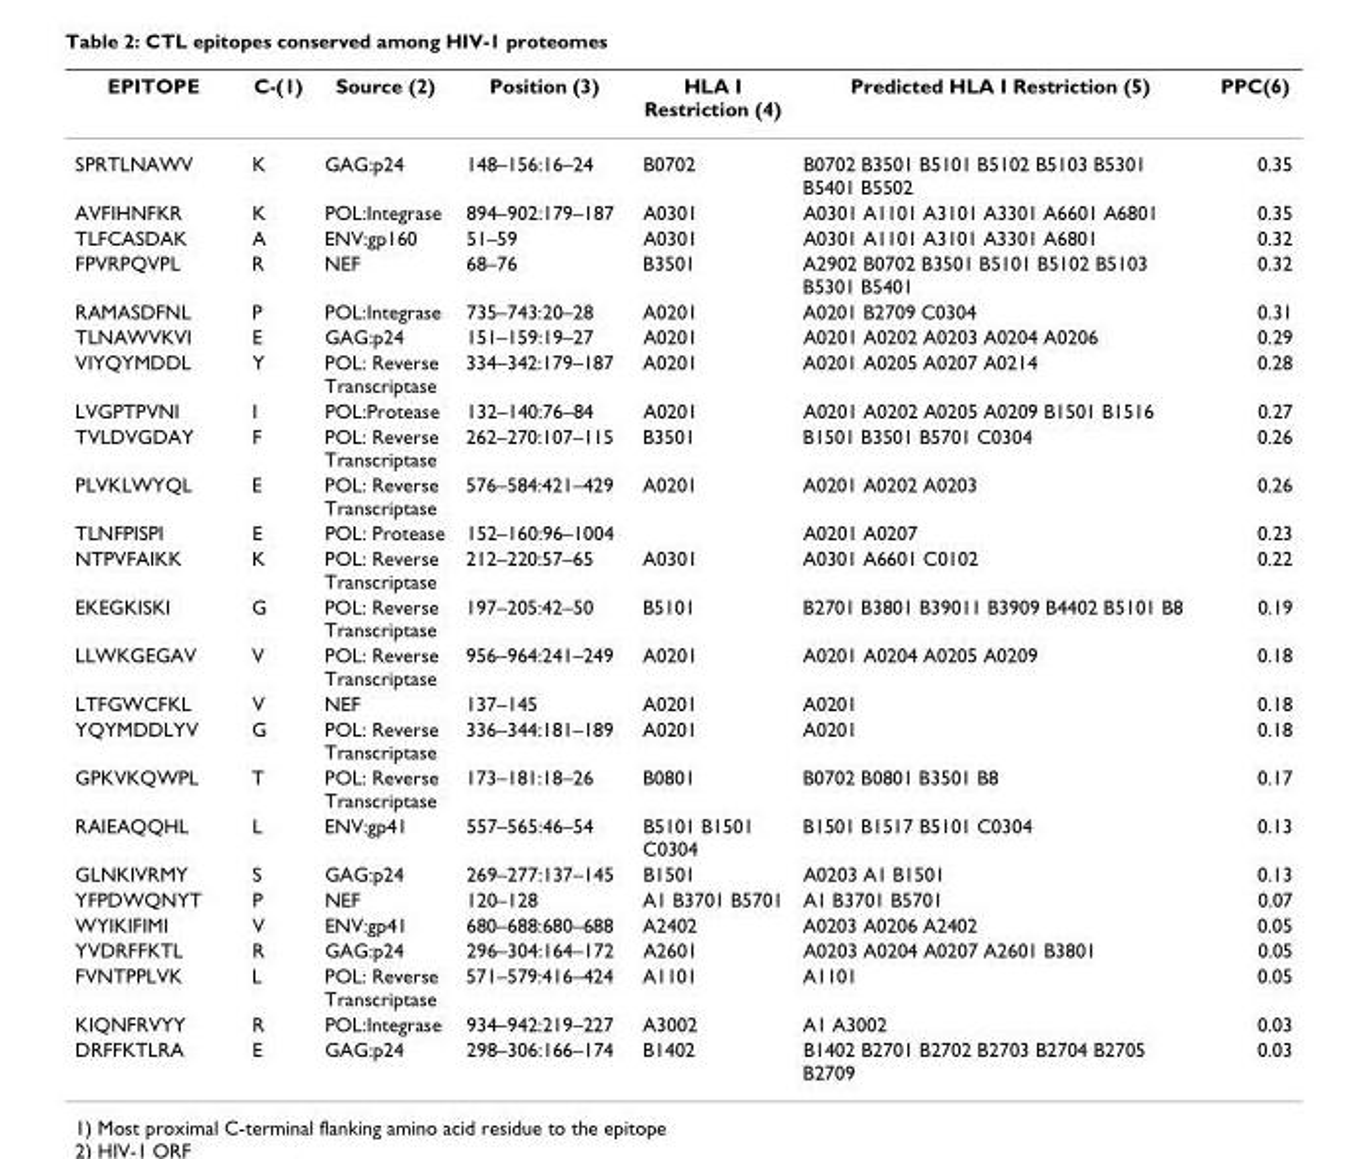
<table><thead><tr><td>EPITOPE</td><td>C-(1)</td><td>Source (2)</td><td>Position (3)</td><td>HLA I Restriction (4)</td><td>Predicted HLA I Restriction (5)</td><td>PPC(6)</td></tr></thead><tbody><tr><td>SPRTLNAWV</td><td>K</td><td>GAG:p24</td><td>148–156:16–24</td><td>B0702</td><td>B0702 B3501 B5101 B5102 B5103 B5301 B5401 B5502</td><td>0.35</td></tr><tr><td>AVFIHNFKR</td><td>K</td><td>POL:Integrase</td><td>894–902:179–187</td><td>A0301</td><td>A0301 A1101 A3101 A3301 A6601 A6801</td><td>0.35</td></tr><tr><td>TLFCASDAK</td><td>A</td><td>ENV:gp160</td><td>51–59</td><td>A0301</td><td>A0301 A1101 A3101 A3301 A6801</td><td>0.32</td></tr><tr><td>FPVRPQVPL</td><td>R</td><td>NEF</td><td>68–76</td><td>B3501</td><td>A2902 B0702 B3501 B5101 B5102 B5103 B5301 B5401</td><td>0.32</td></tr><tr><td>RAMASDFNL</td><td>P</td><td>POL:Integrase</td><td>735–743:20–28</td><td>A0201</td><td>A0201 B2709 C0304</td><td>0.31</td></tr><tr><td>TLNAWVKVI</td><td>E</td><td>GAG:p24</td><td>151–159:19–27</td><td>A0201</td><td>A0201 A0202 A0203 A0204 A0206</td><td>0.29</td></tr><tr><td>VIYQYMDDL</td><td>Y</td><td>POL: Reverse Transcriptase</td><td>334–342:179–187</td><td>A0201</td><td>A0201 A0205 A0207 A0214</td><td>0.28</td></tr><tr><td>LVGPTPVNI</td><td>I</td><td>POL:Protease</td><td>132–140:76–84</td><td>A0201</td><td>A0201 A0202 A0205 A0209 B1501 B1516</td><td>0.27</td></tr><tr><td>TVLDVGDAY</td><td>F</td><td>POL: Reverse Transcriptase</td><td>262–270:107–115</td><td>B3501</td><td>B1501 B3501 B5701 C0304</td><td>0.26</td></tr><tr><td>PLVKLWYQL</td><td>E</td><td>POL: Reverse Transcriptase</td><td>576–584:421–429</td><td>A0201</td><td>A0201 A0202 A0203</td><td>0.26</td></tr><tr><td>TLNFPISPI</td><td>E</td><td>POL: Protease</td><td>152–160:96–1004</td><td></td><td>A0201 A0207</td><td>0.23</td></tr><tr><td>NTPVFAIKK</td><td>K</td><td>POL: Reverse Transcriptase</td><td>212–220:57–65</td><td>A0301</td><td>A0301 A6601 C0102</td><td>0.22</td></tr><tr><td>EKEGKISKI</td><td>G</td><td>POL: Reverse Transcriptase</td><td>197–205:42–50</td><td>B5101</td><td>B2701 B3801 B39011 B3909 B4402 B5101 B8</td><td>0.19</td></tr><tr><td>LLWKGEGAV</td><td>V</td><td>POL: Reverse Transcriptase</td><td>956–964:241–249</td><td>A0201</td><td>A0201 A0204 A0205 A0209</td><td>0.18</td></tr><tr><td>LTFGWCFKL</td><td>V</td><td>NEF</td><td>137–145</td><td>A0201</td><td>A0201</td><td>0.18</td></tr><tr><td>YQYMDDLYV</td><td>G</td><td>POL: Reverse Transcriptase</td><td>336–344:181–189</td><td>A0201</td><td>A0201</td><td>0.18</td></tr><tr><td>GPKVKQWPL</td><td>T</td><td>POL: Reverse Transcriptase</td><td>173–181:18–26</td><td>B0801</td><td>B0702 B0801 B3501 B8</td><td>0.17</td></tr><tr><td>RAIEAQQHL</td><td>L</td><td>ENV:gp41</td><td>557–565:46–54</td><td>B5101 B1501 C0304</td><td>B1501 B1517 B5101 C0304</td><td>0.13</td></tr><tr><td>GLNKIVRMY</td><td>S</td><td>GAG:p24</td><td>269–277:137–145</td><td>B1501</td><td>A0203 A1 B1501</td><td>0.13</td></tr><tr><td>YFPDWQNYT</td><td>P</td><td>NEF</td><td>120–128</td><td>A1 B3701 B5701</td><td>A1 B3701 B5701</td><td>0.07</td></tr><tr><td>WYIKIFIMI</td><td>V</td><td>ENV:gp41</td><td>680–688:680–688</td><td>A2402</td><td>A0203 A0206 A2402</td><td>0.05</td></tr><tr><td>YVDRFFKTL</td><td>R</td><td>GAG:p24</td><td>296–304:164–172</td><td>A2601</td><td>A0203 A0204 A0207 A2601 B3801</td><td>0.05</td></tr><tr><td>FVNTPPLVK</td><td>L</td><td>POL: Reverse Transcriptase</td><td>571–579:416–424</td><td>A1101</td><td>A1101</td><td>0.05</td></tr><tr><td>KIQNFRVYY</td><td>R</td><td>POL:Integrase</td><td>934–942:219–227</td><td>A3002</td><td>A1 A3002</td><td>0.03</td></tr><tr><td>DRFFKTLRA</td><td>E</td><td>GAG:p24</td><td>298–306:166–174</td><td>B1402</td><td>B1402 B2701 B2702 B2703 B2704 B2705 B2709</td><td>0.03</td></tr></tbody></table>